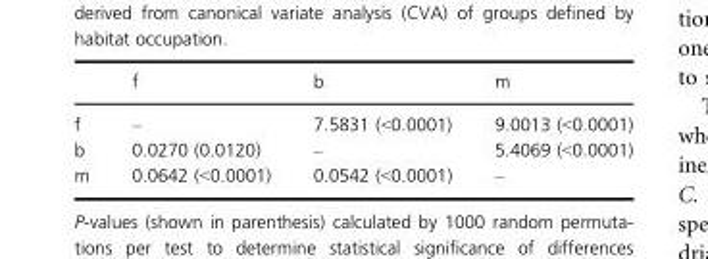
<table><thead><tr><td></td><td>f</td><td>b</td><td>m</td></tr></thead><tbody><tr><td>f</td><td>–</td><td>7.5831 (&lt;0.0001)</td><td>9.0013 (&lt;0.0001)</td></tr><tr><td>b</td><td>0.0270 (0.0120)</td><td>–</td><td>5.4069 (&lt;0.0001)</td></tr><tr><td>m</td><td>0.0642 (&lt;0.0001)</td><td>0.0542 (&lt;0.0001)</td><td>–</td></tr></tbody></table>